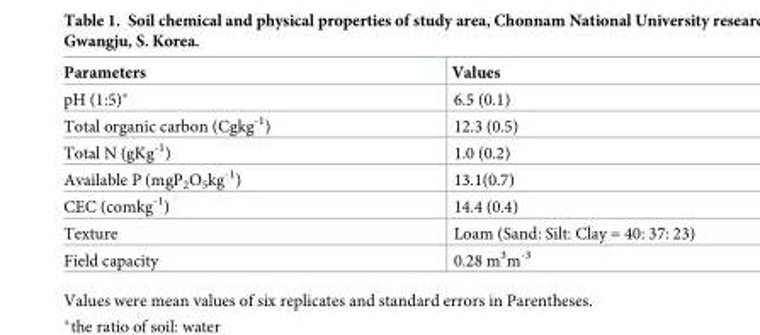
<table><thead><tr><td>Parameters</td><td>Values</td></tr></thead><tbody><tr><td>pH (1:5)*</td><td>6.5 (0.1)</td></tr><tr><td>Total organic carbon (Cgkg<sup>-1</sup>)</td><td>12.3 (0.5)</td></tr><tr><td>Total N (gKg<sup>-1</sup>)</td><td>1.0 (0.2)</td></tr><tr><td>Available P (mgP<sub>2</sub>O<sub>5</sub>kg<sup>-1</sup>)</td><td>13.1(0.7)</td></tr><tr><td>CEC (comkg<sup>-1</sup>)</td><td>14.4 (0.4)</td></tr><tr><td>Texture</td><td>Loam (Sand: Silt: Clay = 40: 37: 23)</td></tr><tr><td>Field capacity</td><td>0.28 m<sup>3</sup>m<sup>-3</sup></td></tr></tbody></table>